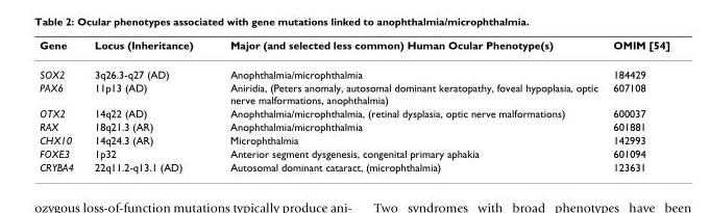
<table><thead><tr><td>Gene</td><td>Locus (Inheritance)</td><td>Major (and selected less common) Human Ocular Phenotype(s)</td><td>OMIM [54]</td></tr></thead><tbody><tr><td>SOX2</td><td>3q26.3-q27 (AD)</td><td>Anophthalmia/microphthalmia</td><td>184429</td></tr><tr><td>PAX6</td><td>11p13 (AD)</td><td>Aniridia, (Peters anomaly, autosomal dominant keratopathy, foveal hypoplasia, optic nerve malformations, anophthalmia)</td><td>607108</td></tr><tr><td>OTX2</td><td>14q22 (AD)</td><td>Anophthalmia/microphthalmia, (retinal dysplasia, optic nerve malformations)</td><td>600037</td></tr><tr><td>RAX</td><td>18q21.3 (AR)</td><td>Anophthalmia/microphthalmia</td><td>601881</td></tr><tr><td>CHX10</td><td>14q24.3 (AR)</td><td>Microphthalmia</td><td>142993</td></tr><tr><td>FOXE3</td><td>1p32</td><td>Anterior segment dysgenesis, congenital primary aphakia</td><td>601094</td></tr><tr><td>CRYBA4</td><td>22q11.2-q13.1 (AD)</td><td>Autosomal dominant cataract, (microphthalmia)</td><td>123631</td></tr></tbody></table>